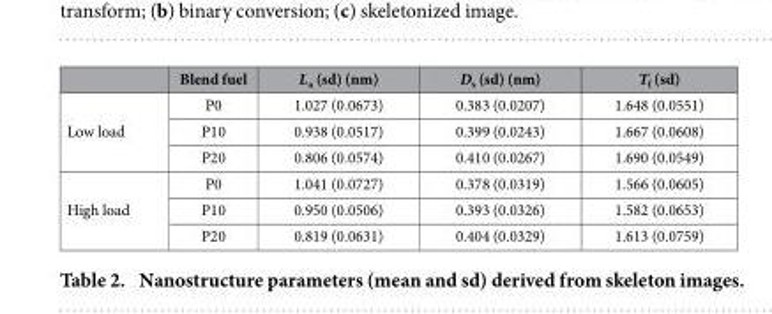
<table><thead><tr><td></td><td>Blend fuel</td><td>L<sub>a</sub> (sd) (nm)</td><td>D<sub>s</sub> (sd) (nm)</td><td>T<sub>f</sub> (sd)</td></tr></thead><tbody><tr><td rowspan="3">Low load</td><td>P0</td><td>1.027 (0.0673)</td><td>0.383 (0.0207)</td><td>1.648 (0.0551)</td></tr><tr><td>P10</td><td>0.938 (0.0517)</td><td>0.399 (0.0243)</td><td>1.667 (0.0608)</td></tr><tr><td>P20</td><td>0.806 (0.0574)</td><td>0.410 (0.0267)</td><td>1.690 (0.0549)</td></tr><tr><td rowspan="3">High load</td><td>P0</td><td>1.041 (0.0727)</td><td>0.378 (0.0319)</td><td>1.566 (0.0605)</td></tr><tr><td>P10</td><td>0.950 (0.0506)</td><td>0.393 (0.0326)</td><td>1.582 (0.0653)</td></tr><tr><td>P20</td><td>0.819 (0.0631)</td><td>0.404 (0.0329)</td><td>1.613 (0.0759)</td></tr></tbody></table>